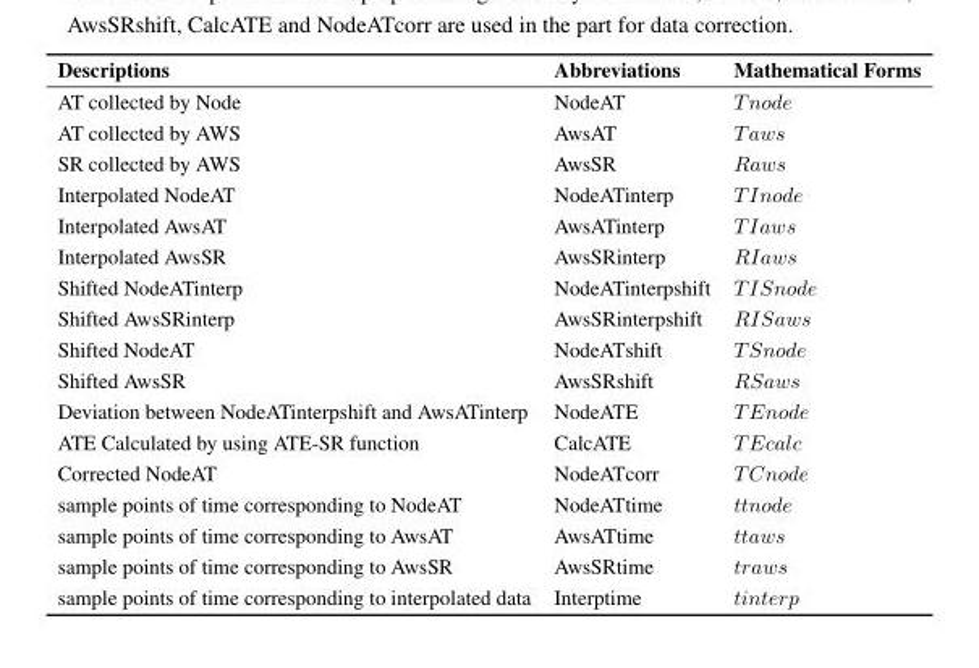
<table><thead><tr><td>Descriptions</td><td>Abbreviations</td><td>Mathematical Forms</td></tr></thead><tbody><tr><td>AT collected by Node</td><td>NodeAT</td><td>Tnode</td></tr><tr><td>AT collected by AWS</td><td>AwsAT</td><td>Taws</td></tr><tr><td>SR collected by AWS</td><td>AwsSR</td><td>Raws</td></tr><tr><td>Interpolated NodeAT</td><td>NodeATinterp</td><td>TInode</td></tr><tr><td>Interpolated AwsAT</td><td>AwsATinterp</td><td>TIaws</td></tr><tr><td>Interpolated AwsSR</td><td>AwsSRinterp</td><td>RIaws</td></tr><tr><td>Shifted NodeATinterp</td><td>NodeATinterpshift</td><td>TISnode</td></tr><tr><td>Shifted AwsSRinterp</td><td>AwsSRinterpshift</td><td>RISaws</td></tr><tr><td>Shifted NodeAT</td><td>NodeATshift</td><td>TSnode</td></tr><tr><td>Shifted AwsSR</td><td>AwsSRshift</td><td>RSaws</td></tr><tr><td>Deviation between NodeATinterpshift and AwsATinterp</td><td>NodeATE</td><td>TEnode</td></tr><tr><td>ATE Calculated by using ATE-SR function</td><td>CalcATE</td><td>TEcalc</td></tr><tr><td>Corrected NodeAT</td><td>NodeATcorr</td><td>TCnode</td></tr><tr><td>sample points of time corresponding to NodeAT</td><td>NodeATtime</td><td>ttnode</td></tr><tr><td>sample points of time corresponding to AwsAT</td><td>AwsATtime</td><td>ttaws</td></tr><tr><td>sample points of time corresponding to AwsSR</td><td>AwsSRtime</td><td>traws</td></tr><tr><td>sample points of time corresponding to interpolated data</td><td>Interptime</td><td>tinterp</td></tr></tbody></table>